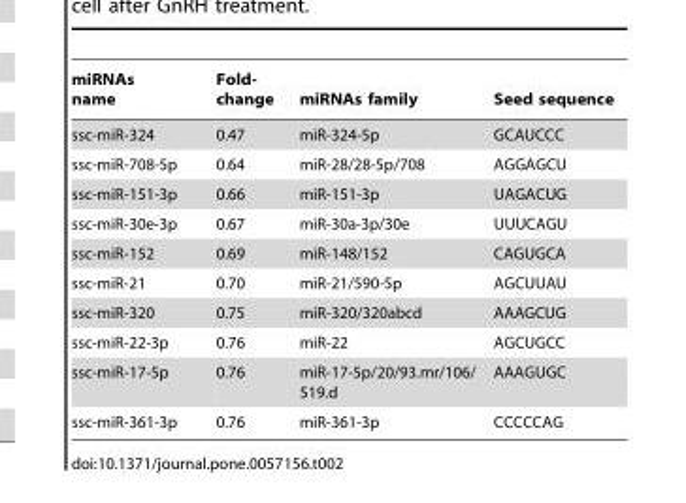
<table><thead><tr><td>miRNAs name</td><td>Fold- change</td><td>miRNAs family</td><td>Seed sequence</td></tr></thead><tbody><tr><td>ssc-miR-324</td><td>0.47</td><td>miR-324-5p</td><td>GCAUCCC</td></tr><tr><td>ssc-miR-708-5p</td><td>0.64</td><td>miR-28/28-5p/708</td><td>AGGAGCU</td></tr><tr><td>ssc-miR-151-3p</td><td>0.66</td><td>miR-151-3p</td><td>UAGACUG</td></tr><tr><td>ssc-miR-30e-3p</td><td>0.67</td><td>miR-30a-3p/30e</td><td>UUUCAGU</td></tr><tr><td>ssc-miR-152</td><td>0.69</td><td>miR-148/152</td><td>CAGUGCA</td></tr><tr><td>ssc-miR-21</td><td>0.70</td><td>miR-21/590-5p</td><td>AGCUUAU</td></tr><tr><td>ssc-miR-320</td><td>0.75</td><td>miR-320/320abcd</td><td>AAAGCUG</td></tr><tr><td>ssc-miR-22-3p</td><td>0.76</td><td>miR-22</td><td>AGCUGCC</td></tr><tr><td>ssc-miR-17-5p</td><td>0.76</td><td>miR-17-5p/20/93.mr/106/ 519.d</td><td>AAAGUGC</td></tr><tr><td>ssc-miR-361-3p</td><td>0.76</td><td>miR-361-3p</td><td>CCCCCAG</td></tr></tbody></table>